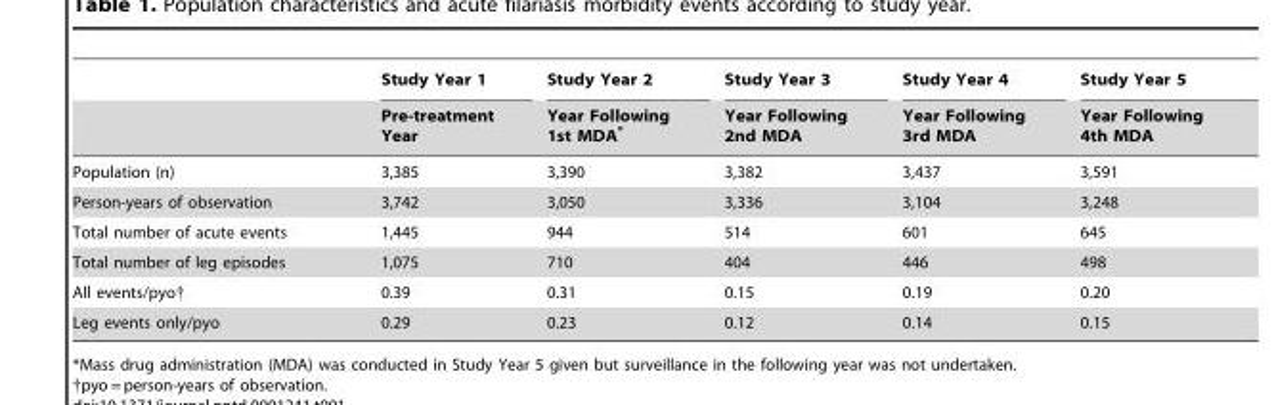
<table><thead><tr><td rowspan="2"></td><td rowspan="2">Study Year 1 Pre-treatment Year</td><td rowspan="2">Study Year 2 Year Following 1st MDA*</td><td rowspan="2">Study Year 3 Year Following 2nd MDA</td><td rowspan="2">Study Year 4 Year Following 3rd MDA</td><td rowspan="2">Study Year 5 Year Following 4th MDA</td></tr><tr></tr></thead><tbody><tr><td>Population (n)</td><td>3,385</td><td>3,390</td><td>3,382</td><td>3,437</td><td>3,591</td></tr><tr><td>Person-years of observation</td><td>3,742</td><td>3,050</td><td>3,336</td><td>3,104</td><td>3,248</td></tr><tr><td>Total number of acute events</td><td>1,445</td><td>944</td><td>514</td><td>601</td><td>645</td></tr><tr><td>Total number of leg episodes</td><td>1,075</td><td>710</td><td>404</td><td>446</td><td>498</td></tr><tr><td>All events/pyo†</td><td>0.39</td><td>0.31</td><td>0.15</td><td>0.19</td><td>0.20</td></tr><tr><td>Leg events only/pyo</td><td>0.29</td><td>0.23</td><td>0.12</td><td>0.14</td><td>0.15</td></tr></tbody></table>